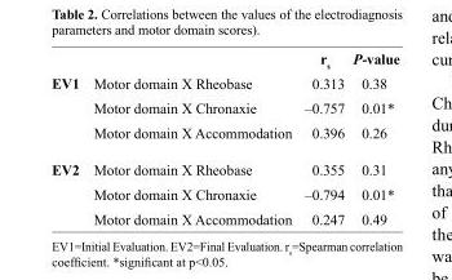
<table><thead><tr><td></td><td></td><td>r<sub>s</sub></td><td>P-value</td></tr></thead><tbody><tr><td rowspan="3">EV1</td><td>Motor domain X Rheobase</td><td>0.313</td><td>0.38</td></tr><tr><td>Motor domain X Chronaxie</td><td>–0.757</td><td>0.01*</td></tr><tr><td>Motor domain X Accommodation</td><td>0.396</td><td>0.26</td></tr><tr><td rowspan="3">EV2</td><td>Motor domain X Rheobase</td><td>0.355</td><td>0.31</td></tr><tr><td>Motor domain X Chronaxie</td><td>–0.794</td><td>0.01*</td></tr><tr><td>Motor domain X Accommodation</td><td>0.247</td><td>0.49</td></tr></tbody></table>